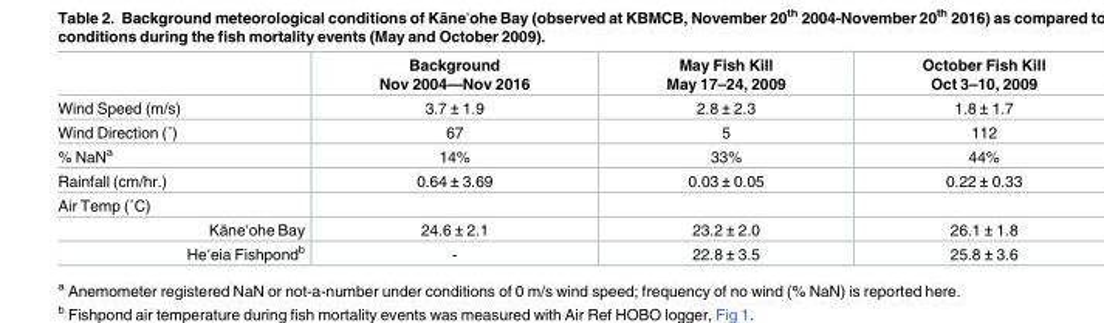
<table><thead><tr><td></td><td>Background Nov 2004—Nov 2016</td><td>May Fish Kill May 17–24, 2009</td><td>October Fish Kill Oct 3–10, 2009</td></tr></thead><tbody><tr><td>Wind Speed (m/s)</td><td>3.7 ± 1.9</td><td>2.8 ± 2.3</td><td>1.8 ± 1.7</td></tr><tr><td>Wind Direction (˚)</td><td>67</td><td>5</td><td>112</td></tr><tr><td>% NaN<sup>a</sup></td><td>14%</td><td>33%</td><td>44%</td></tr><tr><td>Rainfall (cm/hr.)</td><td>0.64 ± 3.69</td><td>0.03 ± 0.05</td><td>0.22 ± 0.33</td></tr><tr><td colspan="4">Air Temp (˚C)</td></tr><tr><td>Kāneʻohe Bay</td><td>24.6 ± 2.1</td><td>23.2 ± 2.0</td><td>26.1 ± 1.8</td></tr><tr><td>Heʻeia Fishpond<sup>b</sup></td><td>-</td><td>22.8 ± 3.5</td><td>25.8 ± 3.6</td></tr></tbody></table>